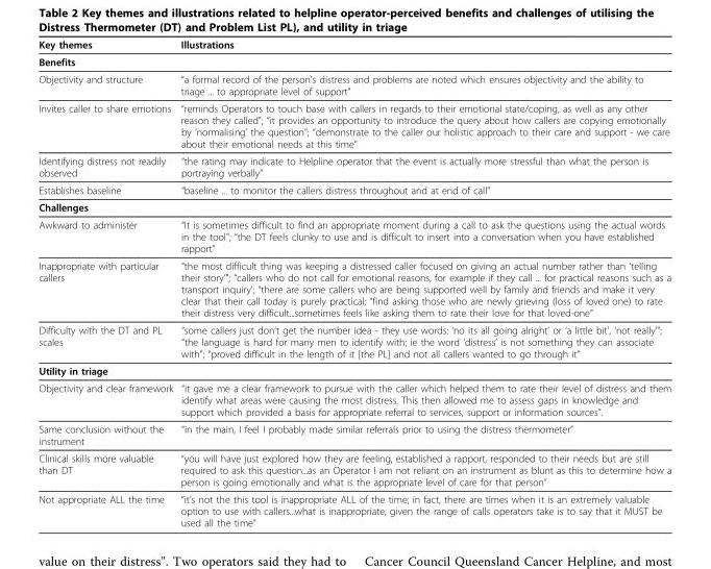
<table><thead><tr><td>Key themes</td><td>Illustrations</td></tr></thead><tbody><tr><td colspan="2">Benefits</td></tr><tr><td>Objectivity and structure</td><td>“a formal record of the person’s distress and problems are noted which ensures objectivity and the ability to triage ... to appropriate level of support”</td></tr><tr><td>Invites caller to share emotions</td><td>“reminds Operators to touch base with callers in regards to their emotional state/coping, as well as any other reason they called&quot;; “it provides an opportunity to introduce the query about how callers are copying emotionally by ‘normalising’ the question&quot;; “demonstrate to the caller our holistic approach to their care and support - we care about their emotional needs at this time”</td></tr><tr><td>Identifying distress not readily observed</td><td>“the rating may indicate to Helpline operator that the event is actually more stressful than what the person is portraying verbally”</td></tr><tr><td>Establishes baseline</td><td>“baseline ... to monitor the callers distress throughout and at end of call”</td></tr><tr><td colspan="2">Challenges</td></tr><tr><td>Awkward to administer</td><td>“It is sometimes difficult to find an appropriate moment during a call to ask the questions using the actual words in the tool&quot;; “the DT feels clunky to use and is difficult to insert into a conversation when you have established rapport”</td></tr><tr><td>Inappropriate with particular callers</td><td>“the most difficult thing was keeping a distressed caller focused on giving an actual number rather than ‘telling their story’&quot;; “callers who do not call for emotional reasons, for example if they call ... for practical reasons such as a transport inquiry’; “there are some callers who are being supported well by family and friends and make it very clear that their call today is purely practical; “find asking those who are newly grieving (loss of loved one) to rate their distress very difficult...sometimes feels like asking them to rate their love for that loved-one”</td></tr><tr><td>Difficulty with the DT and PL scales</td><td>“some callers just don’t get the number idea - they use words: ‘no its all going alright’ or ‘a little bit’, ‘not really’&quot;; “the language is hard for many men to identify with; ie the word ‘distress’ is not something they can associate with&quot;; “proved difficult in the length of it [the PL] and not all callers wanted to go through it”</td></tr><tr><td colspan="2">Utility in triage</td></tr><tr><td>Objectivity and clear framework</td><td>“it gave me a clear framework to pursue with the caller which helped them to rate their level of distress and them identify what areas were causing the most distress. This then allowed me to assess gaps in knowledge and support which provided a basis for appropriate referral to services, support or information sources”.</td></tr><tr><td>Same conclusion without the instrument</td><td>“in the main, I feel I probably made similar referrals prior to using the distress thermometer”</td></tr><tr><td>Clinical skills more valuable than DT</td><td>“you will have just explored how they are feeling, established a rapport, responded to their needs but are still required to ask this question...as an Operator I am not reliant on an instrument as blunt as this to determine how a person is going emotionally and what is the appropriate level of care for that person”</td></tr><tr><td>Not appropriate ALL the time</td><td>“it’s not the this tool is inappropriate ALL of the time; in fact, there are times when it is an extremely valuable option to use with callers...what is inappropriate, given the range of calls operators take is to say that it MUST be used all the time”</td></tr></tbody></table>